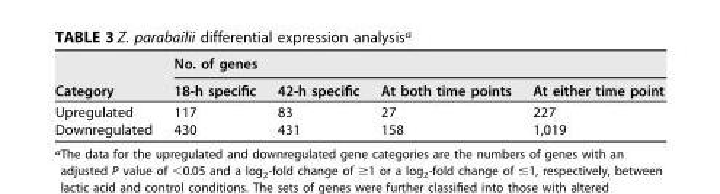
<table><thead><tr><td rowspan="2">Category</td><td colspan="4">No. of genes</td></tr><tr><td>18-h specific</td><td>42-h specific</td><td>At both time points</td><td>At either time point</td></tr></thead><tbody><tr><td>Upregulated</td><td>117</td><td>83</td><td>27</td><td>227</td></tr><tr><td>Downregulated</td><td>430</td><td>431</td><td>158</td><td>1,019</td></tr></tbody></table>